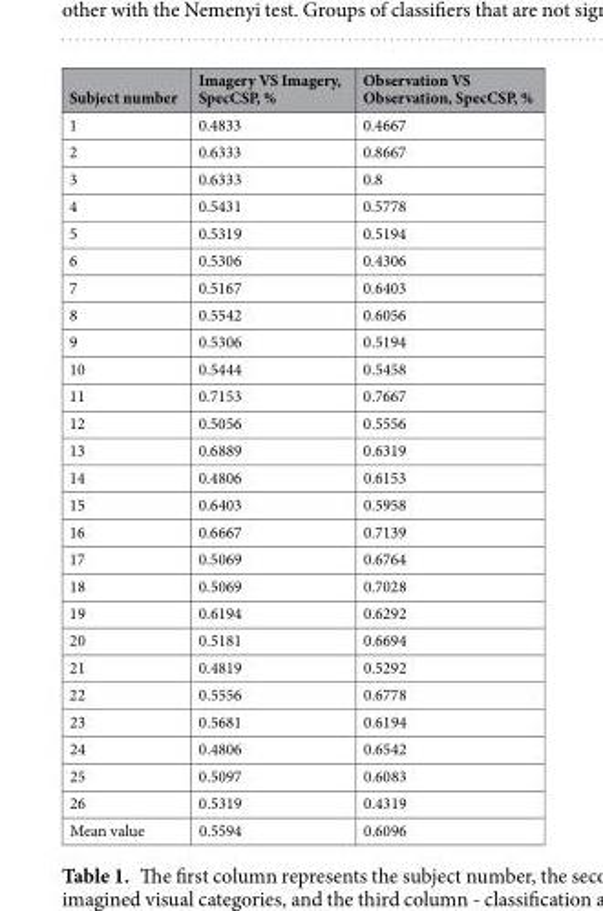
<table><thead><tr><td>Subject number</td><td>Imagery VS Imagery, SpecCSP, %</td><td>Observation VS Observation, SpecCSP, %</td></tr></thead><tbody><tr><td>1</td><td>0.4833</td><td>0.4667</td></tr><tr><td>2</td><td>0.6333</td><td>0.8667</td></tr><tr><td>3</td><td>0.6333</td><td>0.8</td></tr><tr><td>4</td><td>0.5431</td><td>0.5778</td></tr><tr><td>5</td><td>0.5319</td><td>0.5194</td></tr><tr><td>6</td><td>0.5306</td><td>0.4306</td></tr><tr><td>7</td><td>0.5167</td><td>0.6403</td></tr><tr><td>8</td><td>0.5542</td><td>0.6056</td></tr><tr><td>9</td><td>0.5306</td><td>0.5194</td></tr><tr><td>10</td><td>0.5444</td><td>0.5458</td></tr><tr><td>11</td><td>0.7153</td><td>0.7667</td></tr><tr><td>12</td><td>0.5056</td><td>0.5556</td></tr><tr><td>13</td><td>0.6889</td><td>0.6319</td></tr><tr><td>14</td><td>0.4806</td><td>0.6153</td></tr><tr><td>15</td><td>0.6403</td><td>0.5958</td></tr><tr><td>16</td><td>0.6667</td><td>0.7139</td></tr><tr><td>17</td><td>0.5069</td><td>0.6764</td></tr><tr><td>18</td><td>0.5069</td><td>0.7028</td></tr><tr><td>19</td><td>0.6194</td><td>0.6292</td></tr><tr><td>20</td><td>0.5181</td><td>0.6694</td></tr><tr><td>21</td><td>0.4819</td><td>0.5292</td></tr><tr><td>22</td><td>0.5556</td><td>0.6778</td></tr><tr><td>23</td><td>0.5681</td><td>0.6194</td></tr><tr><td>24</td><td>0.4806</td><td>0.6542</td></tr><tr><td>25</td><td>0.5097</td><td>0.6083</td></tr><tr><td>26</td><td>0.5319</td><td>0.4319</td></tr><tr><td>Mean value</td><td>0.5594</td><td>0.6096</td></tr></tbody></table>